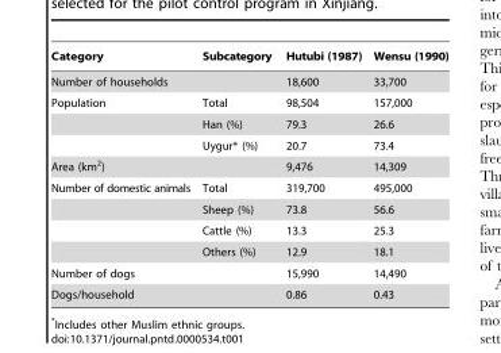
<table><thead><tr><td>Category</td><td>Subcategory</td><td>Hutubi (1987)</td><td>Wensu (1990)</td></tr></thead><tbody><tr><td>Number of households</td><td></td><td>18,600</td><td>33,700</td></tr><tr><td rowspan="3">Population</td><td>Total</td><td>98,504</td><td>157,000</td></tr><tr><td>Han (%)</td><td>79.3</td><td>26.6</td></tr><tr><td>Uygur* (%)</td><td>20.7</td><td>73.4</td></tr><tr><td>Area (km<sup>2</sup>)</td><td></td><td>9,476</td><td>14,309</td></tr><tr><td rowspan="4">Number of domestic animals</td><td>Total</td><td>319,700</td><td>495,000</td></tr><tr><td>Sheep (%)</td><td>73.8</td><td>56.6</td></tr><tr><td>Cattle (%)</td><td>13.3</td><td>25.3</td></tr><tr><td>Others (%)</td><td>12.9</td><td>18.1</td></tr><tr><td>Number of dogs</td><td></td><td>15,990</td><td>14,490</td></tr><tr><td>Dogs/household</td><td></td><td>0.86</td><td>0.43</td></tr></tbody></table>